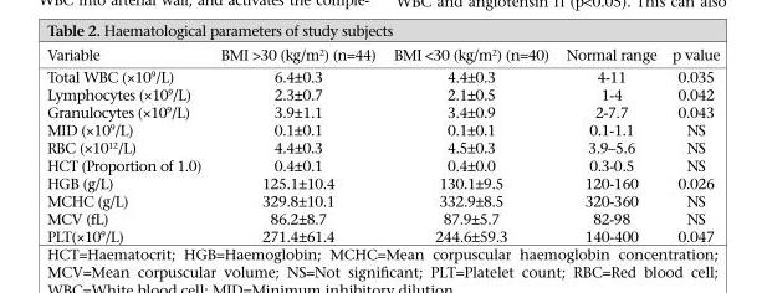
<table><thead><tr><td>Variable</td><td>BMI &gt;30 (kg/m<sup>2</sup>) (n=44)</td><td>BMI &lt;30 (kg/m<sup>2</sup>) (n=40)</td><td>Normal range</td><td>p value</td></tr></thead><tbody><tr><td>Total WBC (×10<sup>9</sup>/L)</td><td>6.4±0.3</td><td>4.4±0.3</td><td>4-11</td><td>0.035</td></tr><tr><td>Lymphocytes (×10<sup>9</sup>/L)</td><td>2.3±0.7</td><td>2.1±0.5</td><td>1-4</td><td>0.042</td></tr><tr><td>Granulocytes (×10<sup>9</sup>/L)</td><td>3.9±1.1</td><td>3.4±0.9</td><td>2-7.7</td><td>0.043</td></tr><tr><td>MID (×10<sup>9</sup>/L)</td><td>0.1±0.1</td><td>0.1±0.1</td><td>0.1-1.1</td><td>NS</td></tr><tr><td>RBC (×10<sup>12</sup>/L)</td><td>4.4±0.3</td><td>4.5±0.3</td><td>3.9–5.6</td><td>NS</td></tr><tr><td>HCT (Proportion of 1.0)</td><td>0.4±0.1</td><td>0.4±0.0</td><td>0.3-0.5</td><td>NS</td></tr><tr><td>HGB (g/L)</td><td>125.1±10.4</td><td>130.1±9.5</td><td>120-160</td><td>0.026</td></tr><tr><td>MCHC (g/L)</td><td>329.8±10.1</td><td>332.9±8.5</td><td>320-360</td><td>NS</td></tr><tr><td>MCV (fL)</td><td>86.2±8.7</td><td>87.9±5.7</td><td>82-98</td><td>NS</td></tr><tr><td>PLT(×10<sup>9</sup>/L)</td><td>271.4±61.4</td><td>244.6±59.3</td><td>140-400</td><td>0.047</td></tr></tbody></table>